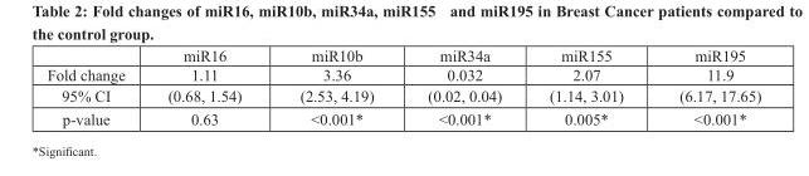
<table><thead><tr><td></td><td>miR16</td><td>miR10b</td><td>miR34a</td><td>miR155</td><td>miR195</td></tr></thead><tbody><tr><td>Fold change</td><td>1.11</td><td>3.36</td><td>0.032</td><td>2.07</td><td>11.9</td></tr><tr><td>95% CI</td><td>(0.68, 1.54)</td><td>(2.53, 4.19)</td><td>(0.02, 0.04)</td><td>(1.14, 3.01)</td><td>(6.17, 17.65)</td></tr><tr><td>p-value</td><td>0.63</td><td>&lt;0.001*</td><td>&lt;0.001*</td><td>0.005*</td><td>&lt;0.001*</td></tr></tbody></table>